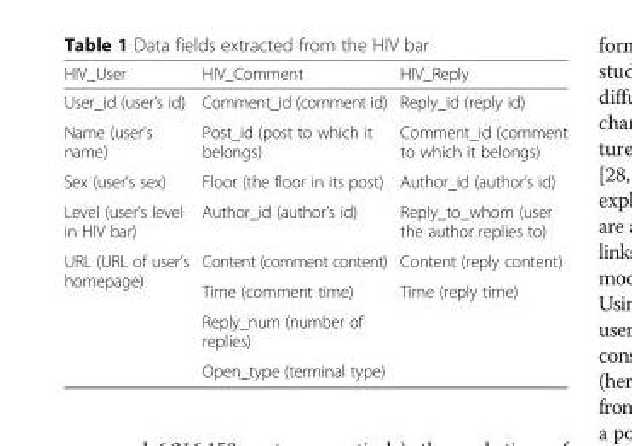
<table><thead><tr><td>HIV_User</td><td>HIV_Comment</td><td>HIV_Reply</td></tr></thead><tbody><tr><td>User_id (user’s id)</td><td>Comment_id (comment id)</td><td>Reply_id (reply id)</td></tr><tr><td>Name (user’s name)</td><td>Post_id (post to which it belongs)</td><td>Comment_id (comment to which it belongs)</td></tr><tr><td>Sex (user’s sex)</td><td>Floor (the floor in its post)</td><td>Author_id (author’s id)</td></tr><tr><td>Level (user’s level in HIV bar)</td><td>Author_id (author’s id)</td><td>Reply_to_whom (user the author replies to)</td></tr><tr><td rowspan="4">URL (URL of user’s homepage)</td><td>Content (comment content)</td><td>Content (reply content)</td></tr><tr><td>Time (comment time)</td><td rowspan="3">Time (reply time)</td></tr><tr><td>Reply_num (number of replies)</td></tr><tr><td>Open_type (terminal type)</td></tr></tbody></table>